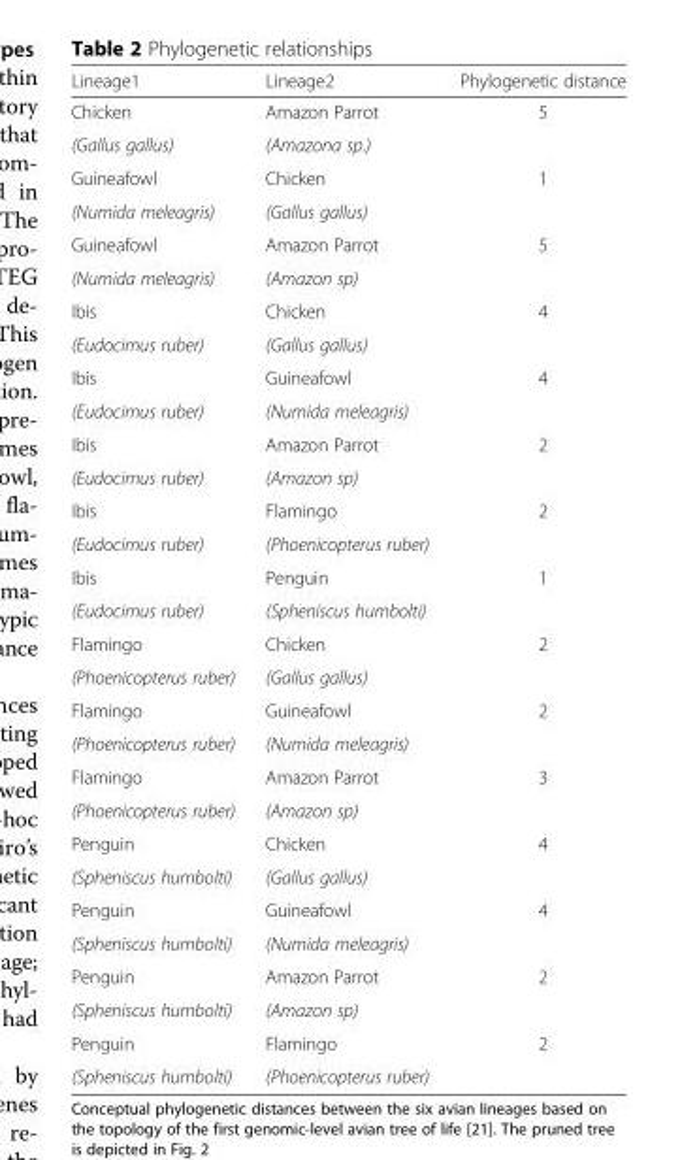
<table><thead><tr><td>Lineage1</td><td>Lineage2</td><td>Phylogenetic distance</td></tr></thead><tbody><tr><td>Chicken</td><td>Amazon Parrot</td><td rowspan="2">5</td></tr><tr><td>(Gallus gallus)</td><td>(Amazona sp.)</td></tr><tr><td>Guineafowl</td><td>Chicken</td><td rowspan="2">1</td></tr><tr><td>(Numida meleagris)</td><td>(Gallus gallus)</td></tr><tr><td>Guineafowl</td><td>Amazon Parrot</td><td rowspan="2">5</td></tr><tr><td>(Numida meleagris)</td><td>(Amazon sp)</td></tr><tr><td>Ibis</td><td>Chicken</td><td rowspan="2">4</td></tr><tr><td>(Eudocimus ruber)</td><td>(Gallus gallus)</td></tr><tr><td>Ibis</td><td>Guineafowl</td><td rowspan="2">4</td></tr><tr><td>(Eudocimus ruber)</td><td>(Numida meleagris)</td></tr><tr><td>Ibis</td><td>Amazon Parrot</td><td rowspan="2">2</td></tr><tr><td>(Eudocimus ruber)</td><td>(Amazon sp)</td></tr><tr><td>Ibis</td><td>Flamingo</td><td rowspan="2">2</td></tr><tr><td>(Eudocimus ruber)</td><td>(Phoenicopterus ruber)</td></tr><tr><td>Ibis</td><td>Penguin</td><td rowspan="2">1</td></tr><tr><td>(Eudocimus ruber)</td><td>(Spheniscus humbolti)</td></tr><tr><td>Flamingo</td><td>Chicken</td><td rowspan="2">2</td></tr><tr><td>(Phoenicopterus ruber)</td><td>(Gallus gallus)</td></tr><tr><td>Flamingo</td><td>Guineafowl</td><td rowspan="2">2</td></tr><tr><td>(Phoenicopterus ruber)</td><td>(Numida meleagris)</td></tr><tr><td>Flamingo</td><td>Amazon Parrot</td><td rowspan="2">3</td></tr><tr><td>(Phoenicopterus ruber)</td><td>(Amazon sp)</td></tr><tr><td>Penguin</td><td>Chicken</td><td rowspan="2">4</td></tr><tr><td>(Spheniscus humbolti)</td><td>(Gallus gallus)</td></tr><tr><td>Penguin</td><td>Guineafowl</td><td rowspan="2">4</td></tr><tr><td>(Spheniscus humbolti)</td><td>(Numida meleagris)</td></tr><tr><td>Penguin</td><td>Amazon Parrot</td><td rowspan="2">2</td></tr><tr><td>(Spheniscus humbolti)</td><td>(Amazon sp)</td></tr><tr><td>Penguin</td><td>Flamingo</td><td rowspan="2">2</td></tr><tr><td>(Spheniscus humbolti)</td><td>(Phoenicopterus ruber)</td></tr></tbody></table>